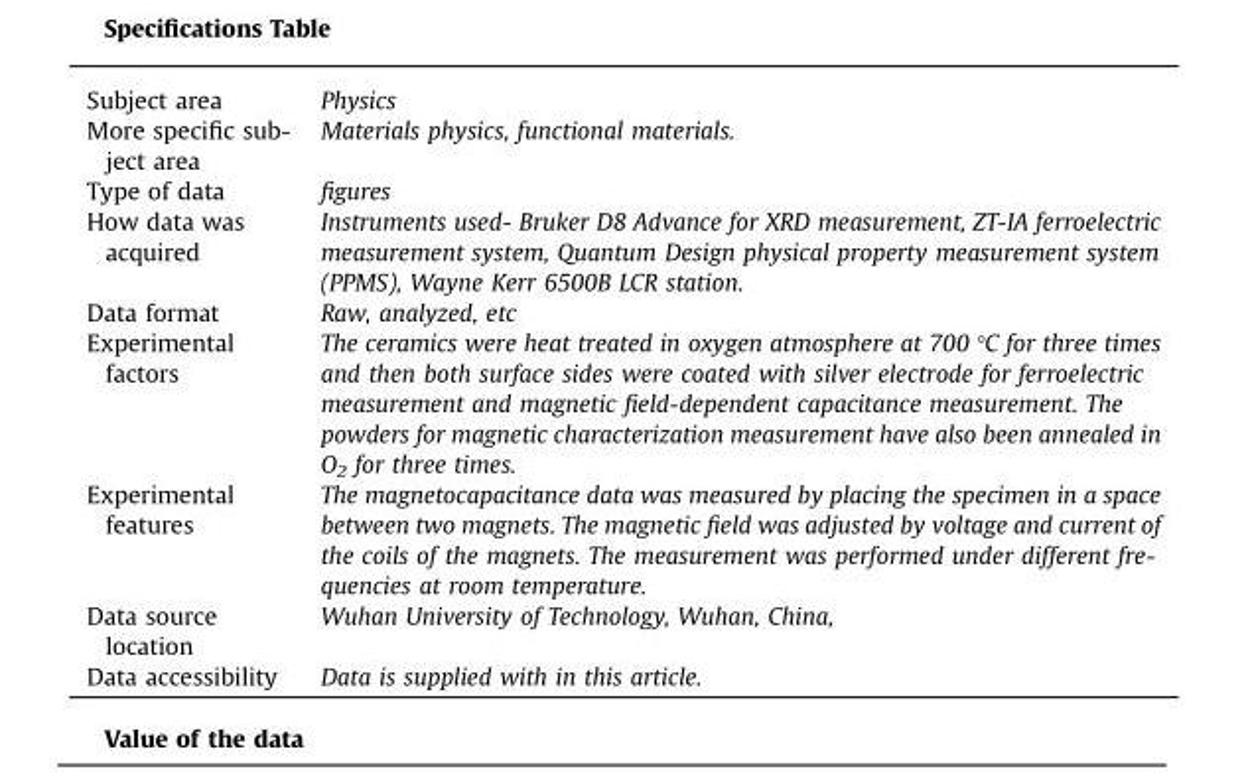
<table><tbody><tr><td>Subject area</td><td>Physics</td></tr><tr><td>More specific sub- ject area</td><td>Materials physics, functional materials.</td></tr><tr><td>Type of data</td><td>figures</td></tr><tr><td>How data was acquired</td><td>Instruments used- Bruker D8 Advance for XRD measurement, ZT-IA ferroelectric measurement system, Quantum Design physical property measurement system (PPMS), Wayne Kerr 6500B LCR station.</td></tr><tr><td>Data format</td><td>Raw, analyzed, etc</td></tr><tr><td>Experimental factors</td><td>The ceramics were heat treated in oxygen atmosphere at 700 °C for three times and then both surface sides were coated with silver electrode for ferroelectric measurement and magnetic field-dependent capacitance measurement. The powders for magnetic characterization measurement have also been annealed in O<sub>2</sub> for three times.</td></tr><tr><td>Experimental features</td><td>The magnetocapacitance data was measured by placing the specimen in a space between two magnets. The magnetic field was adjusted by voltage and current of the coils of the magnets. The measurement was performed under different fre- quencies at room temperature.</td></tr><tr><td>Data source location</td><td>Wuhan University of Technology, Wuhan, China,</td></tr><tr><td>Data accessibility</td><td>Data is supplied with in this article.</td></tr></tbody></table>